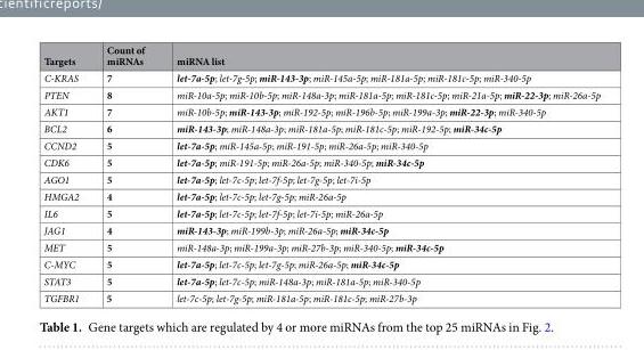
<table><thead><tr><td>Targets</td><td>Count of miRNAs</td><td>miRNA list</td></tr></thead><tbody><tr><td>C-KRAS</td><td>7</td><td>let-7a-5p; let-7g-5p; miR-143-3p; miR-145a-5p; miR-181a-5p; miR-181c-5p; miR-340-5p</td></tr><tr><td>PTEN</td><td>8</td><td>miR-10a-5p; miR-10b-5p; miR-148a-3p; miR-181a-5p; miR-181c-5p; miR-21a-5p; miR-22-3p; miR-26a-5p</td></tr><tr><td>AKT1</td><td>7</td><td>miR-10b-5p; miR-143-3p; miR-192-5p; miR-196b-5p; miR-199a-3p; miR-22-3p; miR-340-5p</td></tr><tr><td>BCL2</td><td>6</td><td>miR-143-3p; miR-148a-3p; miR-181a-5p; miR-181c-5p; miR-192-5p; miR-34c-5p</td></tr><tr><td>CCND2</td><td>5</td><td>let-7a-5p; miR-145a-5p; miR-191-5p; miR-26a-5p; miR-340-5p</td></tr><tr><td>CDK6</td><td>5</td><td>let-7a-5p; miR-191-5p; miR-26a-5p; miR-340-5p; miR-34c-5p</td></tr><tr><td>AGO1</td><td>5</td><td>let-7a-5p; let-7c-5p; let-7f-5p; let-7g-5p; let-7i-5p</td></tr><tr><td>HMGA2</td><td>4</td><td>let-7a-5p; let-7c-5p; let-7g-5p; miR-26a-5p</td></tr><tr><td>IL6</td><td>5</td><td>let-7a-5p; let-7c-5p; let-7f-5p; let-7i-5p; miR-26a-5p</td></tr><tr><td>JAG1</td><td>4</td><td>miR-143-3p; miR-199b-3p; miR-26a-5p; miR-34c-5p</td></tr><tr><td>MET</td><td>5</td><td>miR-148a-3p; miR-199a-3p; miR-27b-3p; miR-340-5p; miR-34c-5p</td></tr><tr><td>C-MYC</td><td>5</td><td>let-7a-5p; let-7c-5p; let-7g-5p; miR-26a-5p; miR-34c-5p</td></tr><tr><td>STAT3</td><td>5</td><td>let-7a-5p; let-7c-5p; miR-148a-3p; miR-181a-5p; miR-340-5p</td></tr><tr><td>TGFBR1</td><td>5</td><td>let-7c-5p; let-7g-5p; miR-181a-5p; miR-181c-5p; miR-27b-3p</td></tr></tbody></table>